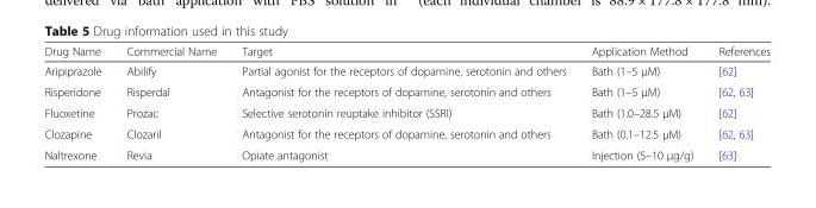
<table><thead><tr><td>Drug Name</td><td>Commercial Name</td><td>Target</td><td>Application Method</td><td>References</td></tr></thead><tbody><tr><td>Aripiprazole</td><td>Abilify</td><td>Partial agonist for the receptors of dopamine, serotonin and others</td><td>Bath (1–5 μM)</td><td>[62]</td></tr><tr><td>Risperidone</td><td>Risperdal</td><td>Antagonist for the receptors of dopamine, serotonin and others</td><td>Bath (1–5 μM)</td><td>[62, 63]</td></tr><tr><td>Fluoxetine</td><td>Prozac</td><td>Selective serotonin reuptake inhibitor (SSRI)</td><td>Bath (1.0–28.5 μM)</td><td>[62]</td></tr><tr><td>Clozapine</td><td>Clozaril</td><td>Antagonist for the receptors of dopamine, serotonin and others</td><td>Bath (0.1–12.5 μM)</td><td>[62, 63]</td></tr><tr><td>Naltrexone</td><td>Revia</td><td>Opiate antagonist</td><td>Injection (5–10 μg/g)</td><td>[63]</td></tr></tbody></table>